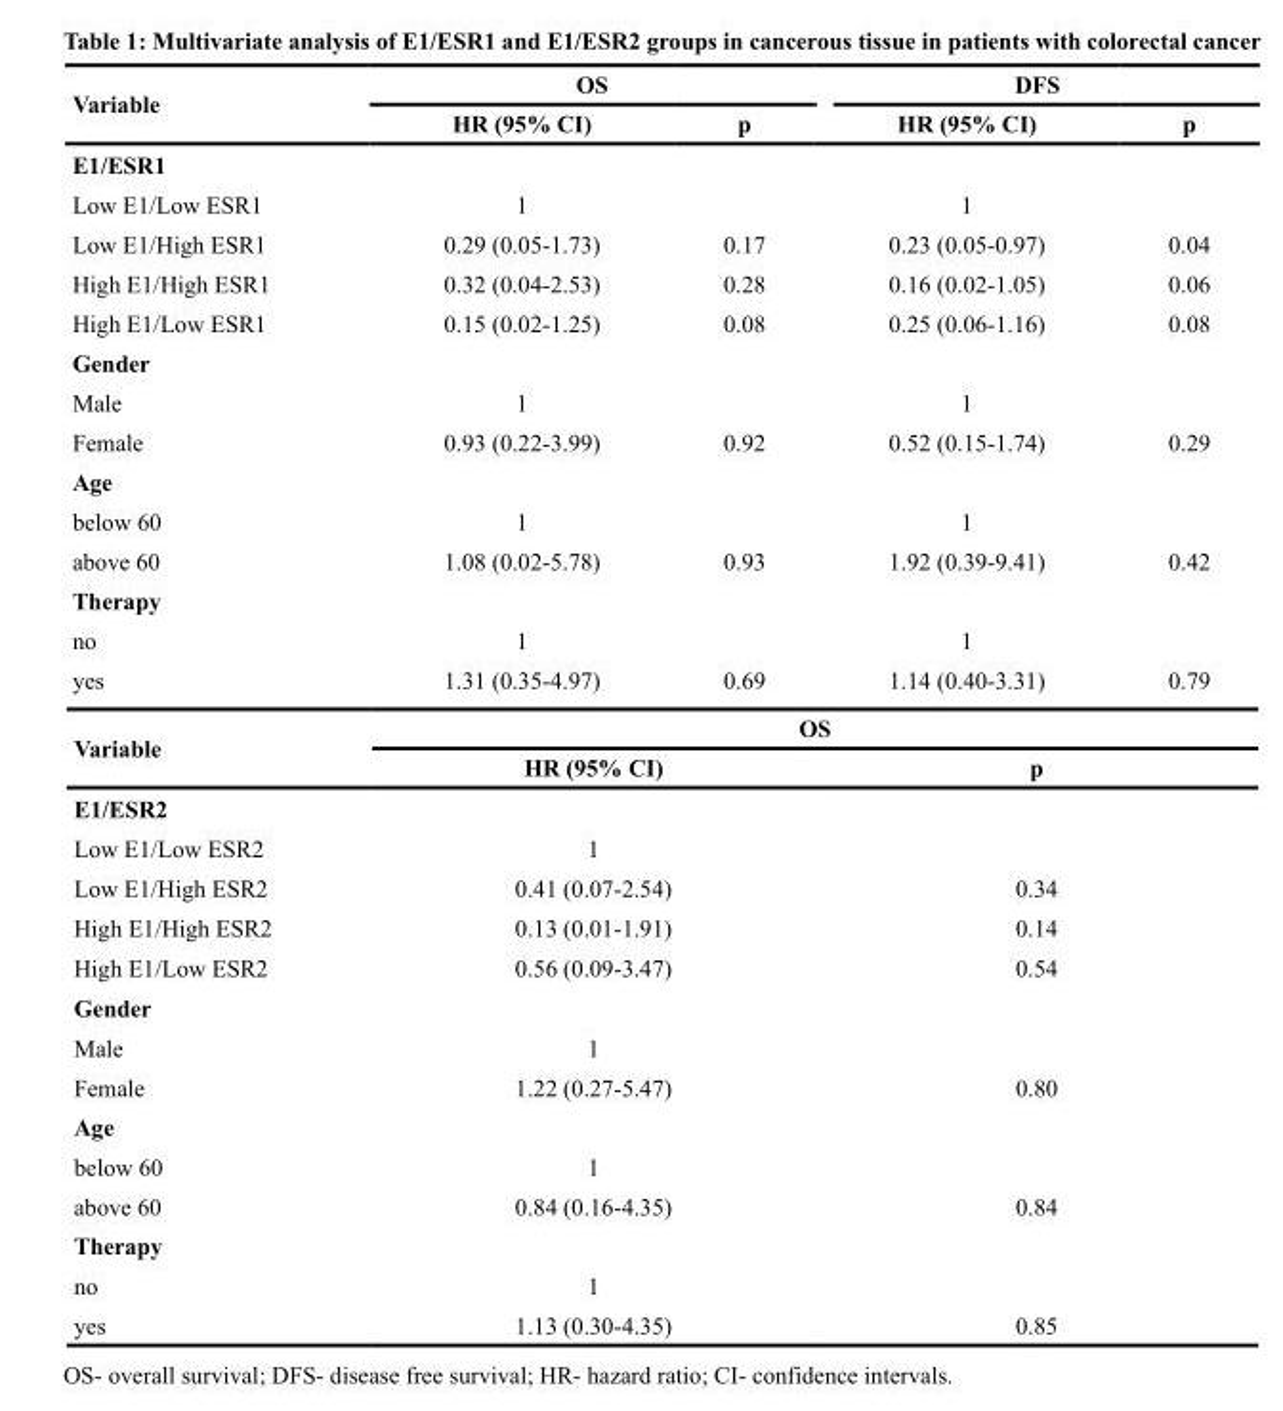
<table><thead><tr><td rowspan="2">Variable</td><td colspan="2">OS</td><td colspan="2">DFS</td></tr><tr><td>HR (95% CI)</td><td>p</td><td>HR (95% CI)</td><td>p</td></tr></thead><tbody><tr><td colspan="5">E1/ESR1</td></tr><tr><td>Low E1/Low ESR1</td><td>1</td><td></td><td>1</td><td></td></tr><tr><td>Low E1/High ESR1</td><td>0.29 (0.05-1.73)</td><td>0.17</td><td>0.23 (0.05-0.97)</td><td>0.04</td></tr><tr><td>High E1/High ESR1</td><td>0.32 (0.04-2.53)</td><td>0.28</td><td>0.16 (0.02-1.05)</td><td>0.06</td></tr><tr><td>High E1/Low ESR1</td><td>0.15 (0.02-1.25)</td><td>0.08</td><td>0.25 (0.06-1.16)</td><td>0.08</td></tr><tr><td colspan="5">Gender</td></tr><tr><td>Male</td><td>1</td><td></td><td>1</td><td></td></tr><tr><td>Female</td><td>0.93 (0.22-3.99)</td><td>0.92</td><td>0.52 (0.15-1.74)</td><td>0.29</td></tr><tr><td colspan="5">Age</td></tr><tr><td>below 60</td><td>1</td><td></td><td>1</td><td></td></tr><tr><td>above 60</td><td>1.08 (0.02-5.78)</td><td>0.93</td><td>1.92 (0.39-9.41)</td><td>0.42</td></tr><tr><td colspan="5">Therapy</td></tr><tr><td>no</td><td>1</td><td></td><td>1</td><td></td></tr><tr><td>yes</td><td>1.31 (0.35-4.97)</td><td>0.69</td><td>1.14 (0.40-3.31)</td><td>0.79</td></tr><tr><td rowspan="2">Variable</td><td colspan="4">OS</td></tr><tr><td colspan="2">HR (95% CI)</td><td colspan="2">p</td></tr><tr><td colspan="5">E1/ESR2</td></tr><tr><td>Low E1/Low ESR2</td><td colspan="2">1</td><td></td><td></td></tr><tr><td>Low E1/High ESR2</td><td colspan="2">0.41 (0.07-2.54)</td><td colspan="2">0.34</td></tr><tr><td>High E1/High ESR2</td><td colspan="2">0.13 (0.01-1.91)</td><td colspan="2">0.14</td></tr><tr><td>High E1/Low ESR2</td><td colspan="2">0.56 (0.09-3.47)</td><td colspan="2">0.54</td></tr><tr><td colspan="5">Gender</td></tr><tr><td>Male</td><td colspan="2">1</td><td></td><td></td></tr><tr><td>Female</td><td colspan="2">1.22 (0.27-5.47)</td><td colspan="2">0.80</td></tr><tr><td colspan="5">Age</td></tr><tr><td>below 60</td><td colspan="2">1</td><td></td><td></td></tr><tr><td>above 60</td><td colspan="2">0.84 (0.16-4.35)</td><td colspan="2">0.84</td></tr><tr><td colspan="5">Therapy</td></tr><tr><td>no</td><td colspan="2">1</td><td></td><td></td></tr><tr><td>yes</td><td colspan="2">1.13 (0.30-4.35)</td><td colspan="2">0.85</td></tr></tbody></table>